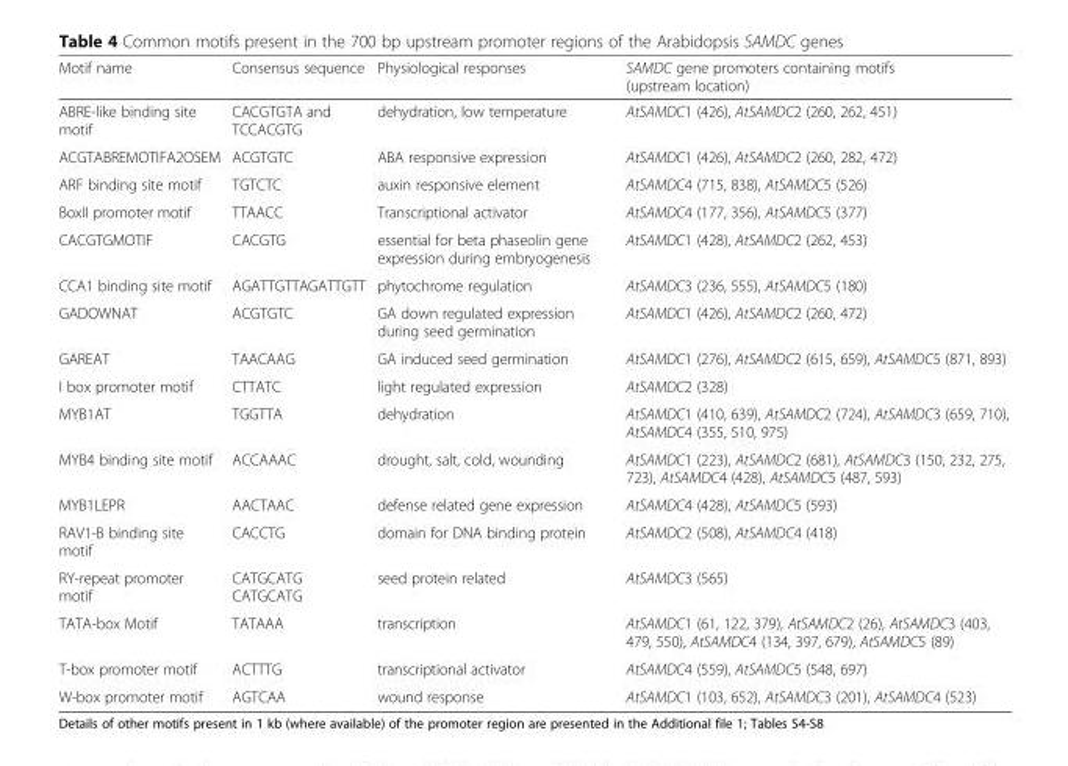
<table><thead><tr><td>Motif name</td><td>Consensus sequence</td><td>Physiological responses</td><td>SAMDC gene promoters containing motifs (upstream location)</td></tr></thead><tbody><tr><td>ABRE-like binding site motif</td><td>CACGTGTA and TCCACGTG</td><td>dehydration, low temperature</td><td>AtSAMDC1 (426), AtSAMDC2 (260, 262, 451)</td></tr><tr><td>ACGTABREMOTIFA2OSEM</td><td>ACGTGTC</td><td>ABA responsive expression</td><td>AtSAMDC1 (426), AtSAMDC2 (260, 282, 472)</td></tr><tr><td>ARF binding site motif</td><td>TGTCTC</td><td>auxin responsive element</td><td>AtSAMDC4 (715, 838), AtSAMDC5 (526)</td></tr><tr><td>BoxII promoter motif</td><td>TTAACC</td><td>Transcriptional activator</td><td>AtSAMDC4 (177, 356), AtSAMDC5 (377)</td></tr><tr><td>CACGTGMOTIF</td><td>CACGTG</td><td>essential for beta phaseolin gene expression during embryogenesis</td><td>AtSAMDC1 (428), AtSAMDC2 (262, 453)</td></tr><tr><td>CCA1 binding site motif</td><td>AGATTGTTAGATTGTT</td><td>phytochrome regulation</td><td>AtSAMDC3 (236, 555), AtSAMDC5 (180)</td></tr><tr><td>GADOWNAT</td><td>ACGTGTC</td><td>GA down regulated expression during seed germination</td><td>AtSAMDC1 (426), AtSAMDC2 (260, 472)</td></tr><tr><td>GAREAT</td><td>TAACAAG</td><td>GA induced seed germination</td><td>AtSAMDC1 (276), AtSAMDC2 (615, 659), AtSAMDC5 (871, 893)</td></tr><tr><td>I box promoter motif</td><td>CTTATC</td><td>light regulated expression</td><td>AtSAMDC2 (328)</td></tr><tr><td>MYB1AT</td><td>TGGTTA</td><td>dehydration</td><td>AtSAMDC1 (410, 639), AtSAMDC2 (724), AtSAMDC3 (659, 710), AtSAMDC4 (355, 510, 975)</td></tr><tr><td>MYB4 binding site motif</td><td>ACCAAAC</td><td>drought, salt, cold, wounding</td><td>AtSAMDC1 (223), AtSAMDC2 (681), AtSAMDC3 (150, 232, 275, 723), AtSAMDC4 (428), AtSAMDC5 (487, 593)</td></tr><tr><td>MYB1LEPR</td><td>AACTAAC</td><td>defense related gene expression</td><td>AtSAMDC4 (428), AtSAMDC5 (593)</td></tr><tr><td>RAV1-B binding site motif</td><td>CACCTG</td><td>domain for DNA binding protein</td><td>AtSAMDC2 (508), AtSAMDC4 (418)</td></tr><tr><td>RY-repeat promoter motif</td><td>CATGCATG CATGCATG</td><td>seed protein related</td><td>AtSAMDC3 (565)</td></tr><tr><td>TATA-box Motif</td><td>TATAAA</td><td>transcription</td><td>AtSAMDC1 (61, 122, 379), AtSAMDC2 (26), AtSAMDC3 (403, 479, 550), AtSAMDC4 (134, 397, 679), AtSAMDC5 (89)</td></tr><tr><td>T-box promoter motif</td><td>ACTTTG</td><td>transcriptional activator</td><td>AtSAMDC4 (559), AtSAMDC5 (548, 697)</td></tr><tr><td>W-box promoter motif</td><td>AGTCAA</td><td>wound response</td><td>AtSAMDC1 (103, 652), AtSAMDC3 (201), AtSAMDC4 (523)</td></tr></tbody></table>